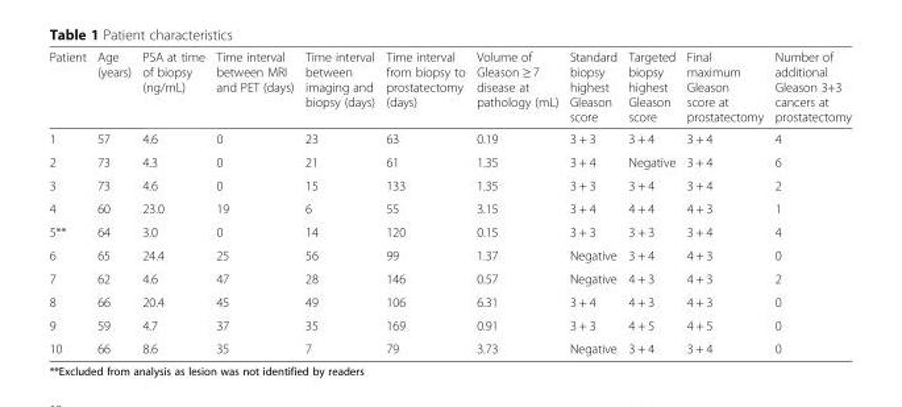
<table><thead><tr><td>Patient</td><td>Age (years)</td><td>PSA at time of biopsy (ng/mL)</td><td>Time interval between MRI and PET (days)</td><td>Time interval between imaging and biopsy (days)</td><td>Time interval from biopsy to prostatectomy (days)</td><td>Volume of Gleason ≥ 7 disease at pathology (mL)</td><td>Standard biopsy highest Gleason score</td><td>Targeted biopsy highest Gleason score</td><td>Final maximum Gleason score at prostatectomy</td><td>Number of additional Gleason 3+3 cancers at prostatectomy</td></tr></thead><tbody><tr><td>1</td><td>57</td><td>4.6</td><td>0</td><td>23</td><td>63</td><td>0.19</td><td>3 + 3</td><td>3 + 4</td><td>3 + 4</td><td>4</td></tr><tr><td>2</td><td>73</td><td>4.3</td><td>0</td><td>21</td><td>61</td><td>1.35</td><td>3 + 4</td><td>Negative</td><td>3 + 4</td><td>6</td></tr><tr><td>3</td><td>73</td><td>4.6</td><td>0</td><td>15</td><td>133</td><td>1.35</td><td>3 + 3</td><td>3 + 4</td><td>3 + 4</td><td>2</td></tr><tr><td>4</td><td>60</td><td>23.0</td><td>19</td><td>6</td><td>55</td><td>3.15</td><td>3 + 4</td><td>4 + 4</td><td>4 + 3</td><td>1</td></tr><tr><td>5**</td><td>64</td><td>3.0</td><td>0</td><td>14</td><td>120</td><td>0.15</td><td>3 + 3</td><td>3 + 3</td><td>3 + 4</td><td>4</td></tr><tr><td>6</td><td>65</td><td>24.4</td><td>25</td><td>56</td><td>99</td><td>1.37</td><td>Negative</td><td>3 + 4</td><td>4 + 3</td><td>0</td></tr><tr><td>7</td><td>62</td><td>4.6</td><td>47</td><td>28</td><td>146</td><td>0.57</td><td>Negative</td><td>4 + 3</td><td>4 + 3</td><td>2</td></tr><tr><td>8</td><td>66</td><td>20.4</td><td>45</td><td>49</td><td>106</td><td>6.31</td><td>3 + 4</td><td>4 + 3</td><td>4 + 3</td><td>0</td></tr><tr><td>9</td><td>59</td><td>4.7</td><td>37</td><td>35</td><td>169</td><td>0.91</td><td>3 + 3</td><td>4 + 5</td><td>4 + 5</td><td>0</td></tr><tr><td>10</td><td>66</td><td>8.6</td><td>35</td><td>7</td><td>79</td><td>3.73</td><td>Negative</td><td>3 + 4</td><td>3 + 4</td><td>0</td></tr></tbody></table>